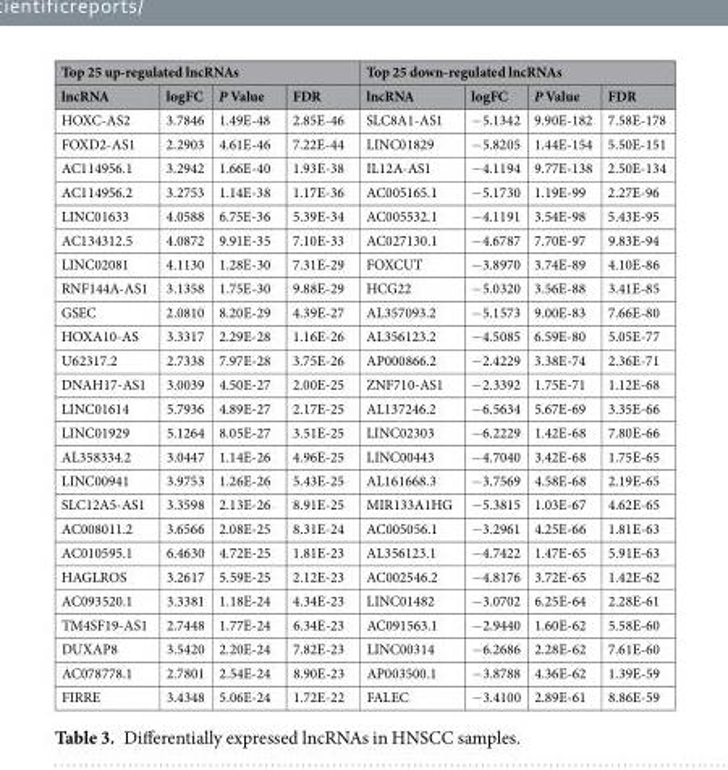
<table><thead><tr><td colspan="4">Top 25 up-regulated lncRNAs</td><td colspan="4">Top 25 down-regulated lncRNAs</td></tr><tr><td>lncRNA</td><td>logFC</td><td>P Value</td><td>FDR</td><td>lncRNA</td><td>logFC</td><td>P Value</td><td>FDR</td></tr></thead><tbody><tr><td>HOXC-AS2</td><td>3.7846</td><td>1.49E-48</td><td>2.85E-46</td><td>SLC8A1-AS1</td><td>−5.1342</td><td>9.90E-182</td><td>7.58E-178</td></tr><tr><td>FOXD2-AS1</td><td>2.2903</td><td>4.61E-46</td><td>7.22E-44</td><td>LINC01829</td><td>−5.8205</td><td>1.44E-154</td><td>5.50E-151</td></tr><tr><td>AC114956.1</td><td>3.2942</td><td>1.66E-40</td><td>1.93E-38</td><td>IL12A-AS1</td><td>−4.1194</td><td>9.77E-138</td><td>2.50E-134</td></tr><tr><td>AC114956.2</td><td>3.2753</td><td>1.14E-38</td><td>1.17E-36</td><td>AC005165.1</td><td>−5.1730</td><td>1.19E-99</td><td>2.27E-96</td></tr><tr><td>LINC01633</td><td>4.0588</td><td>6.75E-36</td><td>5.39E-34</td><td>AC005532.1</td><td>−4.1191</td><td>3.54E-98</td><td>5.43E-95</td></tr><tr><td>AC134312.5</td><td>4.0872</td><td>9.91E-35</td><td>7.10E-33</td><td>AC027130.1</td><td>−4.6787</td><td>7.70E-97</td><td>9.83E-94</td></tr><tr><td>LINC02081</td><td>4.1130</td><td>1.28E-30</td><td>7.31E-29</td><td>FOXCUT</td><td>−3.8970</td><td>3.74E-89</td><td>4.10E-86</td></tr><tr><td>RNF144A-AS1</td><td>3.1358</td><td>1.75E-30</td><td>9.88E-29</td><td>HCG22</td><td>−5.0320</td><td>3.56E-88</td><td>3.41E-85</td></tr><tr><td>GSEC</td><td>2.0810</td><td>8.20E-29</td><td>4.39E-27</td><td>AL357093.2</td><td>−5.1573</td><td>9.00E-83</td><td>7.66E-80</td></tr><tr><td>HOXA10-AS</td><td>3.3317</td><td>2.29E-28</td><td>1.16E-26</td><td>AL356123.2</td><td>−4.5085</td><td>6.59E-80</td><td>5.05E-77</td></tr><tr><td>U62317.2</td><td>2.7338</td><td>7.97E-28</td><td>3.75E-26</td><td>AP000866.2</td><td>−2.4229</td><td>3.38E-74</td><td>2.36E-71</td></tr><tr><td>DNAH17-AS1</td><td>3.0039</td><td>4.50E-27</td><td>2.00E-25</td><td>ZNF710-AS1</td><td>−2.3392</td><td>1.75E-71</td><td>1.12E-68</td></tr><tr><td>LINC01614</td><td>5.7936</td><td>4.89E-27</td><td>2.17E-25</td><td>AL137246.2</td><td>−6.5634</td><td>5.67E-69</td><td>3.35E-66</td></tr><tr><td>LINC01929</td><td>5.1264</td><td>8.05E-27</td><td>3.51E-25</td><td>LINC02303</td><td>−6.2229</td><td>1.42E-68</td><td>7.80E-66</td></tr><tr><td>AL358334.2</td><td>3.0447</td><td>1.14E-26</td><td>4.96E-25</td><td>LINC00443</td><td>−4.7040</td><td>3.42E-68</td><td>1.75E-65</td></tr><tr><td>LINC00941</td><td>3.9753</td><td>1.26E-26</td><td>5.43E-25</td><td>AL161668.3</td><td>−3.7569</td><td>4.58E-68</td><td>2.19E-65</td></tr><tr><td>SLC12A5-AS1</td><td>3.3598</td><td>2.13E-26</td><td>8.91E-25</td><td>MIR133A1HG</td><td>−5.3815</td><td>1.03E-67</td><td>4.62E-65</td></tr><tr><td>AC008011.2</td><td>3.6566</td><td>2.08E-25</td><td>8.31E-24</td><td>AC005056.1</td><td>−3.2961</td><td>4.25E-66</td><td>1.81E-63</td></tr><tr><td>AC010595.1</td><td>6.4630</td><td>4.72E-25</td><td>1.81E-23</td><td>AL356123.1</td><td>−4.7422</td><td>1.47E-65</td><td>5.91E-63</td></tr><tr><td>HAGLROS</td><td>3.2617</td><td>5.59E-25</td><td>2.12E-23</td><td>AC002546.2</td><td>−4.8176</td><td>3.72E-65</td><td>1.42E-62</td></tr><tr><td>AC093520.1</td><td>3.3381</td><td>1.18E-24</td><td>4.34E-23</td><td>LINC01482</td><td>−3.0702</td><td>6.25E-64</td><td>2.28E-61</td></tr><tr><td>TM4SF19-AS1</td><td>2.7448</td><td>1.77E-24</td><td>6.34E-23</td><td>AC091563.1</td><td>−2.9440</td><td>1.60E-62</td><td>5.58E-60</td></tr><tr><td>DUXAP8</td><td>3.5420</td><td>2.20E-24</td><td>7.82E-23</td><td>LINC00314</td><td>−6.2686</td><td>2.28E-62</td><td>7.61E-60</td></tr><tr><td>AC078778.1</td><td>2.7801</td><td>2.54E-24</td><td>8.90E-23</td><td>AP003500.1</td><td>−3.8788</td><td>4.36E-62</td><td>1.39E-59</td></tr><tr><td>FIRRE</td><td>3.4348</td><td>5.06E-24</td><td>1.72E-22</td><td>FALEC</td><td>−3.4100</td><td>2.89E-61</td><td>8.86E-59</td></tr></tbody></table>